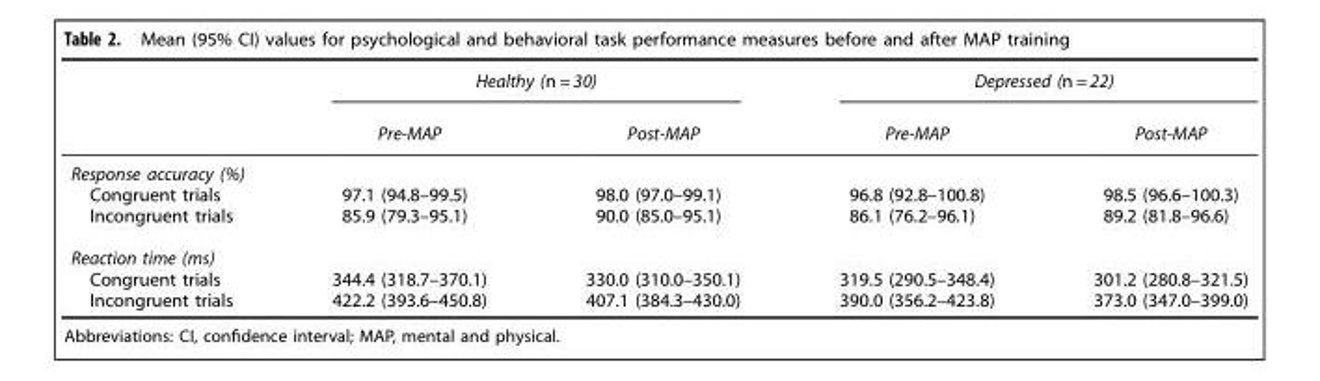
<table><thead><tr><td rowspan="2"></td><td colspan="2">Healthy (n = 30)</td><td colspan="2">Depressed (n = 22)</td></tr><tr><td>Pre-MAP</td><td>Post-MAP</td><td>Pre-MAP</td><td>Post-MAP</td></tr></thead><tbody><tr><td colspan="5">Response accuracy (%)</td></tr><tr><td>Congruent trials</td><td>97.1 (94.8–99.5)</td><td>98.0 (97.0–99.1)</td><td>96.8 (92.8–100.8)</td><td>98.5 (96.6–100.3)</td></tr><tr><td>Incongruent trials</td><td>85.9 (79.3–95.1)</td><td>90.0 (85.0–95.1)</td><td>86.1 (76.2–96.1)</td><td>89.2 (81.8–96.6)</td></tr><tr><td colspan="5">Reaction time (ms)</td></tr><tr><td>Congruent trials</td><td>344.4 (318.7–370.1)</td><td>330.0 (310.0–350.1)</td><td>319.5 (290.5–348.4)</td><td>301.2 (280.8–321.5)</td></tr><tr><td>Incongruent trials</td><td>422.2 (393.6–450.8)</td><td>407.1 (384.3–430.0)</td><td>390.0 (356.2–423.8)</td><td>373.0 (347.0–399.0)</td></tr></tbody></table>